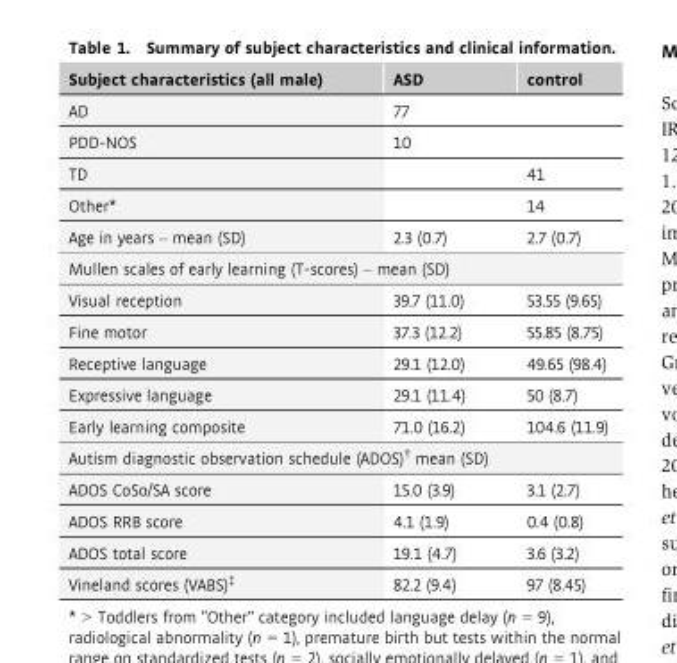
<table><thead><tr><td>Subject characteristics (all male)</td><td>ASD</td><td>control</td></tr></thead><tbody><tr><td>AD</td><td>77</td><td></td></tr><tr><td>PDD-NOS</td><td>10</td><td></td></tr><tr><td>TD</td><td></td><td>41</td></tr><tr><td>Other*</td><td></td><td>14</td></tr><tr><td>Age in years – mean (SD)</td><td>2.3 (0.7)</td><td>2.7 (0.7)</td></tr><tr><td colspan="3">Mullen scales of early learning (T-scores) – mean (SD)</td></tr><tr><td>Visual reception</td><td>39.7 (11.0)</td><td>53.55 (9.65)</td></tr><tr><td>Fine motor</td><td>37.3 (12.2)</td><td>55.85 (8.75)</td></tr><tr><td>Receptive language</td><td>29.1 (12.0)</td><td>49.65 (98.4)</td></tr><tr><td>Expressive language</td><td>29.1 (11.4)</td><td>50 (8.7)</td></tr><tr><td>Early learning composite</td><td>71.0 (16.2)</td><td>104.6 (11.9)</td></tr><tr><td colspan="3">Autism diagnostic observation schedule (ADOS)† mean (SD)</td></tr><tr><td>ADOS CoSo/SA score</td><td>15.0 (3.9)</td><td>3.1 (2.7)</td></tr><tr><td>ADOS RRB score</td><td>4.1 (1.9)</td><td>0.4 (0.8)</td></tr><tr><td>ADOS total score</td><td>19.1 (4.7)</td><td>3.6 (3.2)</td></tr><tr><td>Vineland scores (VABS)‡</td><td>82.2 (9.4)</td><td>97 (8.45)</td></tr></tbody></table>